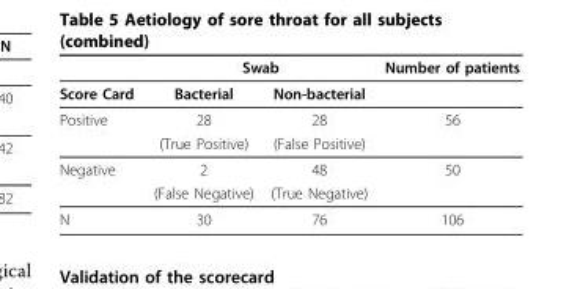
<table><thead><tr><td rowspan="2">Score Card</td><td colspan="2">Swab</td><td rowspan="2">Number of patients</td></tr><tr><td>Bacterial</td><td>Non-bacterial</td></tr></thead><tbody><tr><td rowspan="2">Positive</td><td>28</td><td>28</td><td>56</td></tr><tr><td>(True Positive)</td><td>(False Positive)</td><td></td></tr><tr><td rowspan="2">Negative</td><td>2</td><td>48</td><td>50</td></tr><tr><td>(False Negative)</td><td>(True Negative)</td><td></td></tr><tr><td>N</td><td>30</td><td>76</td><td>106</td></tr></tbody></table>